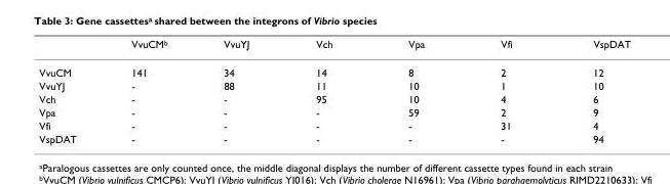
<table><thead><tr><td></td><td>VvuCM<sup>b</sup></td><td>VvuYJ</td><td>Vch</td><td>Vpa</td><td>Vfi</td><td>VspDAT</td></tr></thead><tbody><tr><td>VvuCM</td><td>141</td><td>34</td><td>14</td><td>8</td><td>2</td><td>12</td></tr><tr><td>VvuYJ</td><td>-</td><td>88</td><td>11</td><td>10</td><td>1</td><td>10</td></tr><tr><td>Vch</td><td>-</td><td>-</td><td>95</td><td>10</td><td>4</td><td>6</td></tr><tr><td>Vpa</td><td>-</td><td>-</td><td>-</td><td>59</td><td>2</td><td>9</td></tr><tr><td>Vfi</td><td>-</td><td>-</td><td>-</td><td>-</td><td>31</td><td>4</td></tr><tr><td>VspDAT</td><td>-</td><td>-</td><td>-</td><td>-</td><td>-</td><td>94</td></tr></tbody></table>